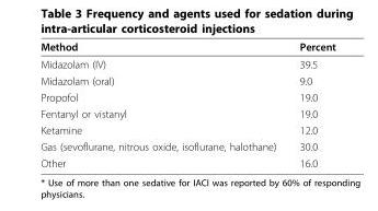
<table><thead><tr><td>Method</td><td>Percent</td></tr></thead><tbody><tr><td>Midazolam (IV)</td><td>39.5</td></tr><tr><td>Midazolam (oral)</td><td>9.0</td></tr><tr><td>Propofol</td><td>19.0</td></tr><tr><td>Fentanyl or vistanyl</td><td>19.0</td></tr><tr><td>Ketamine</td><td>12.0</td></tr><tr><td>Gas (sevoflurane, nitrous oxide, isoflurane, halothane)</td><td>30.0</td></tr><tr><td>Other</td><td>16.0</td></tr></tbody></table>